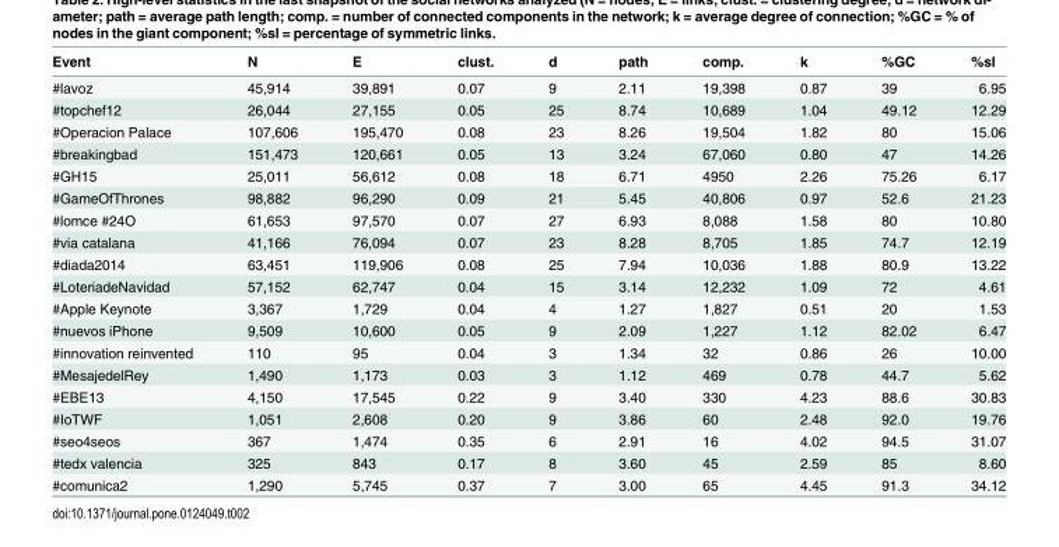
<table><thead><tr><td>Event</td><td>N</td><td>E</td><td>clust.</td><td>d</td><td>path</td><td>comp.</td><td>k</td><td>%GC</td><td>%sl</td></tr></thead><tbody><tr><td>#lavoz</td><td>45,914</td><td>39,891</td><td>0.07</td><td>9</td><td>2.11</td><td>19,398</td><td>0.87</td><td>39</td><td>6.95</td></tr><tr><td>#topchef12</td><td>26,044</td><td>27,155</td><td>0.05</td><td>25</td><td>8.74</td><td>10,689</td><td>1.04</td><td>49.12</td><td>12.29</td></tr><tr><td>#Operacion Palace</td><td>107,606</td><td>195,470</td><td>0.08</td><td>23</td><td>8.26</td><td>19,504</td><td>1.82</td><td>80</td><td>15.06</td></tr><tr><td>#breakingbad</td><td>151,473</td><td>120,661</td><td>0.05</td><td>13</td><td>3.24</td><td>67,060</td><td>0.80</td><td>47</td><td>14.26</td></tr><tr><td>#GH15</td><td>25,011</td><td>56,612</td><td>0.08</td><td>18</td><td>6.71</td><td>4950</td><td>2.26</td><td>75.26</td><td>6.17</td></tr><tr><td>#GameOfThrones</td><td>98,882</td><td>96,290</td><td>0.09</td><td>21</td><td>5.45</td><td>40,806</td><td>0.97</td><td>52.6</td><td>21.23</td></tr><tr><td>#lomce #24O</td><td>61,653</td><td>97,570</td><td>0.07</td><td>27</td><td>6.93</td><td>8,088</td><td>1.58</td><td>80</td><td>10.80</td></tr><tr><td>#via catalana</td><td>41,166</td><td>76,094</td><td>0.07</td><td>23</td><td>8.28</td><td>8,705</td><td>1.85</td><td>74.7</td><td>12.19</td></tr><tr><td>#diada2014</td><td>63,451</td><td>119,906</td><td>0.08</td><td>25</td><td>7.94</td><td>10,036</td><td>1.88</td><td>80.9</td><td>13.22</td></tr><tr><td>#LoteriadeNavidad</td><td>57,152</td><td>62,747</td><td>0.04</td><td>15</td><td>3.14</td><td>12,232</td><td>1.09</td><td>72</td><td>4.61</td></tr><tr><td>#Apple Keynote</td><td>3,367</td><td>1,729</td><td>0.04</td><td>4</td><td>1.27</td><td>1,827</td><td>0.51</td><td>20</td><td>1.53</td></tr><tr><td>#nuevos iPhone</td><td>9,509</td><td>10,600</td><td>0.05</td><td>9</td><td>2.09</td><td>1,227</td><td>1.12</td><td>82.02</td><td>6.47</td></tr><tr><td>#innovation reinvented</td><td>110</td><td>95</td><td>0.04</td><td>3</td><td>1.34</td><td>32</td><td>0.86</td><td>26</td><td>10.00</td></tr><tr><td>#MesajedelRey</td><td>1,490</td><td>1,173</td><td>0.03</td><td>3</td><td>1.12</td><td>469</td><td>0.78</td><td>44.7</td><td>5.62</td></tr><tr><td>#EBE13</td><td>4,150</td><td>17,545</td><td>0.22</td><td>9</td><td>3.40</td><td>330</td><td>4.23</td><td>88.6</td><td>30.83</td></tr><tr><td>#IoTWF</td><td>1,051</td><td>2,608</td><td>0.20</td><td>9</td><td>3.86</td><td>60</td><td>2.48</td><td>92.0</td><td>19.76</td></tr><tr><td>#seo4seos</td><td>367</td><td>1,474</td><td>0.35</td><td>6</td><td>2.91</td><td>16</td><td>4.02</td><td>94.5</td><td>31.07</td></tr><tr><td>#tedx valencia</td><td>325</td><td>843</td><td>0.17</td><td>8</td><td>3.60</td><td>45</td><td>2.59</td><td>85</td><td>8.60</td></tr><tr><td>#comunica2</td><td>1,290</td><td>5,745</td><td>0.37</td><td>7</td><td>3.00</td><td>65</td><td>4.45</td><td>91.3</td><td>34.12</td></tr></tbody></table>